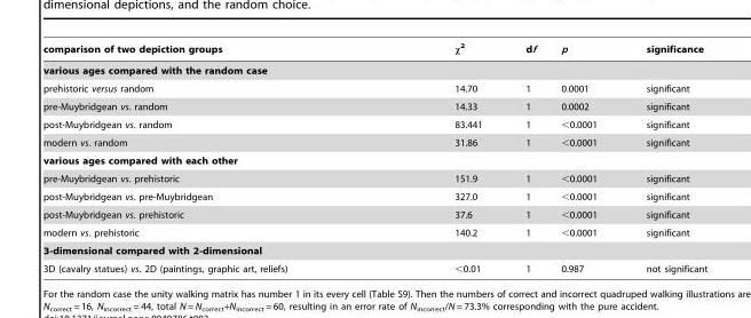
<table><thead><tr><td>comparison of two depiction groups</td><td>x2</td><td>df</td><td>p</td><td>significance</td></tr></thead><tbody><tr><td colspan="5">various ages compared with the random case</td></tr><tr><td>prehistoric versus random</td><td>14.70</td><td>1</td><td>0.0001</td><td>significant</td></tr><tr><td>pre-Muybridgean vs. random</td><td>14.33</td><td>1</td><td>0.0002</td><td>significant</td></tr><tr><td>post-Muybridgean vs. random</td><td>83.441</td><td>1</td><td>&lt;0.0001</td><td>significant</td></tr><tr><td>modern vs. random</td><td>31.86</td><td>1</td><td>&lt;0.0001</td><td>significant</td></tr><tr><td colspan="5">various ages compared with each other</td></tr><tr><td>pre-Muybridgean vs. prehistoric</td><td>151.9</td><td>1</td><td>&lt;0.0001</td><td>significant</td></tr><tr><td>post-Muybridgean vs. pre-Muybridgean</td><td>327.0</td><td>1</td><td>&lt;0.0001</td><td>significant</td></tr><tr><td>post-Muybridgean vs. prehistoric</td><td>37.6</td><td>1</td><td>&lt;0.0001</td><td>significant</td></tr><tr><td>modern vs. prehistoric</td><td>140.2</td><td>1</td><td>&lt;0.0001</td><td>significant</td></tr><tr><td colspan="5">3-dimensional compared with 2-dimensional</td></tr><tr><td>3D (cavalry statues) vs. 2D (paintings, graphic art, reliefs)</td><td>&lt;0.01</td><td>1</td><td>0.987</td><td>not significant</td></tr></tbody></table>